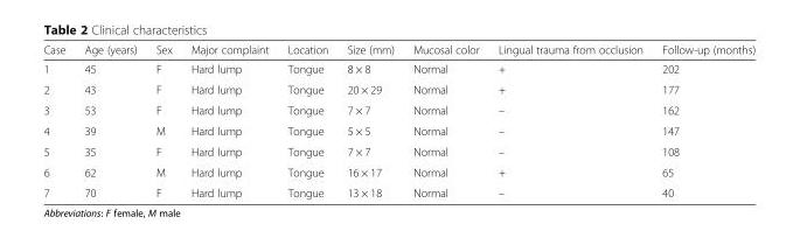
<table><thead><tr><td>Case</td><td>Age (years)</td><td>Sex</td><td>Major complaint</td><td>Location</td><td>Size (mm)</td><td>Mucosal color</td><td>Lingual trauma from occlusion</td><td>Follow-up (months)</td></tr></thead><tbody><tr><td>1</td><td>45</td><td>F</td><td>Hard lump</td><td>Tongue</td><td>8 × 8</td><td>Normal</td><td>+</td><td>202</td></tr><tr><td>2</td><td>43</td><td>F</td><td>Hard lump</td><td>Tongue</td><td>20 × 29</td><td>Normal</td><td>+</td><td>177</td></tr><tr><td>3</td><td>53</td><td>F</td><td>Hard lump</td><td>Tongue</td><td>7 × 7</td><td>Normal</td><td>–</td><td>162</td></tr><tr><td>4</td><td>39</td><td>M</td><td>Hard lump</td><td>Tongue</td><td>5 × 5</td><td>Normal</td><td>–</td><td>147</td></tr><tr><td>5</td><td>35</td><td>F</td><td>Hard lump</td><td>Tongue</td><td>7 × 7</td><td>Normal</td><td>–</td><td>108</td></tr><tr><td>6</td><td>62</td><td>M</td><td>Hard lump</td><td>Tongue</td><td>16 × 17</td><td>Normal</td><td>+</td><td>65</td></tr><tr><td>7</td><td>70</td><td>F</td><td>Hard lump</td><td>Tongue</td><td>13 × 18</td><td>Normal</td><td>–</td><td>40</td></tr></tbody></table>